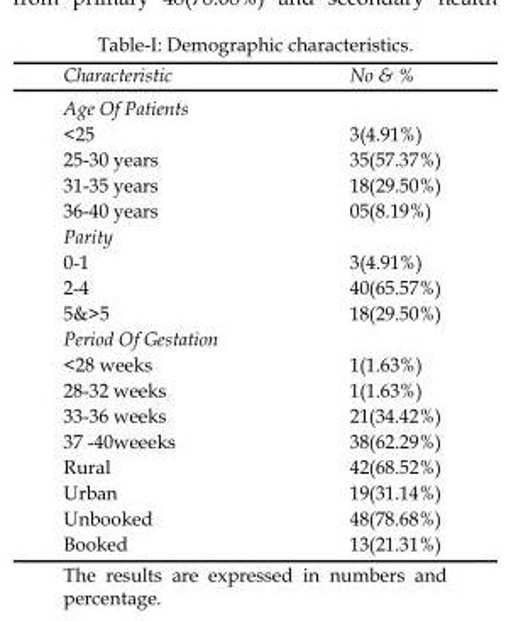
<table><thead><tr><td>Characteristic</td><td>No &amp; %</td></tr></thead><tbody><tr><td colspan="2">Age Of Patients</td></tr><tr><td>&lt;25</td><td>3(4.91%)</td></tr><tr><td>25-30 years</td><td>35(57.37%)</td></tr><tr><td>31-35 years</td><td>18(29.50%)</td></tr><tr><td>36-40 years</td><td>05(8.19%)</td></tr><tr><td colspan="2">Parity</td></tr><tr><td>0-1</td><td>3(4.91%)</td></tr><tr><td>2-4</td><td>40(65.57%)</td></tr><tr><td>5&amp;&gt;5</td><td>18(29.50%)</td></tr><tr><td colspan="2">Period Of Gestation</td></tr><tr><td>&lt;28 weeks</td><td>1(1.63%)</td></tr><tr><td>28-32 weeks</td><td>1(1.63%)</td></tr><tr><td>33-36 weeks</td><td>21(34.42%)</td></tr><tr><td>37 -40weeeks</td><td>38(62.29%)</td></tr><tr><td>Rural</td><td>42(68.52%)</td></tr><tr><td>Urban</td><td>19(31.14%)</td></tr><tr><td>Unbooked</td><td>48(78.68%)</td></tr><tr><td>Booked</td><td>13(21.31%)</td></tr></tbody></table>